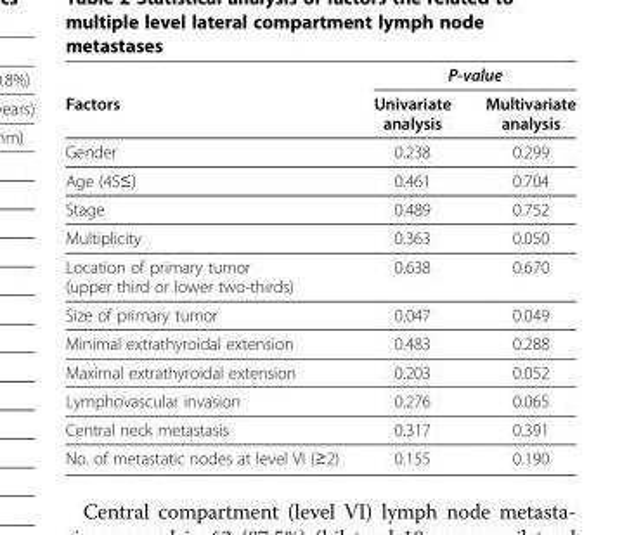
<table><thead><tr><td rowspan="2">Factors</td><td colspan="2">P-value</td></tr><tr><td>Univariate analysis</td><td>Multivariate analysis</td></tr></thead><tbody><tr><td>Gender</td><td>0.238</td><td>0.299</td></tr><tr><td>Age (45≤)</td><td>0.461</td><td>0.704</td></tr><tr><td>Stage</td><td>0.489</td><td>0.752</td></tr><tr><td>Multiplicity</td><td>0.363</td><td>0.050</td></tr><tr><td>Location of primary tumor (upper third or lower two-thirds)</td><td>0.638</td><td>0.670</td></tr><tr><td>Size of primary tumor</td><td>0.047</td><td>0.049</td></tr><tr><td>Minimal extrathyroidal extension</td><td>0.483</td><td>0.288</td></tr><tr><td>Maximal extrathyroidal extension</td><td>0.203</td><td>0.052</td></tr><tr><td>Lymphovascular invasion</td><td>0.276</td><td>0.065</td></tr><tr><td>Central neck metastasis</td><td>0.317</td><td>0.391</td></tr><tr><td>No. of metastatic nodes at level VI (≥2)</td><td>0.155</td><td>0.190</td></tr></tbody></table>